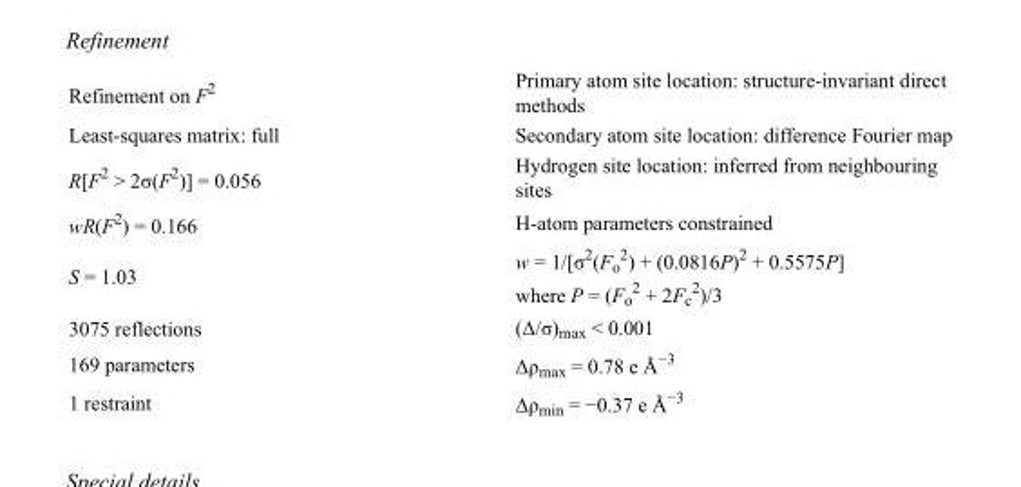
<table><tbody><tr><td>Refinement on F<sup>2</sup></td><td>Primary atom site location: structure-invariant direct methods</td></tr><tr><td>Least-squares matrix: full</td><td>Secondary atom site location: difference Fourier map</td></tr><tr><td>R[F<sup>2</sup> &gt; 2σ(F<sup>2</sup>)] = 0.056</td><td>Hydrogen site location: inferred from neighbouring sites</td></tr><tr><td>wR(F<sup>2</sup>) = 0.166</td><td>H-atom parameters constrained</td></tr><tr><td>S = 1.03</td><td>w = 1/[σ<sup>2</sup>(F<sub>o</sub> <sup>2</sup>) + (0.0816P)<sup>2</sup> + 0.5575P] where P = (F<sub>o</sub> <sup>2</sup> + 2F<sub>c</sub> <sup>2</sup>)/3</td></tr><tr><td>3075 reflections</td><td>(Δ/σ)<sub>max</sub> &lt; 0.001</td></tr><tr><td>169 parameters</td><td>Δρ<sub>max</sub> = 0.78 e Å<sup>−3</sup></td></tr><tr><td>1 restraint</td><td>Δρ<sub>min</sub> = −0.37 e Å<sup>−3</sup></td></tr></tbody></table>